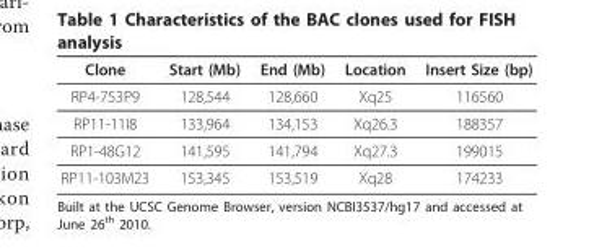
<table><thead><tr><td>Clone</td><td>Start (Mb)</td><td>End (Mb)</td><td>Location</td><td>Insert Size (bp)</td></tr></thead><tbody><tr><td>RP4-753P9</td><td>128,544</td><td>128,660</td><td>Xq25</td><td>116560</td></tr><tr><td>RP11-11I8</td><td>133,964</td><td>134,153</td><td>Xq26.3</td><td>188357</td></tr><tr><td>RP1-48G12</td><td>141,595</td><td>141,794</td><td>Xq27.3</td><td>199015</td></tr><tr><td>RP11-103M23</td><td>153,345</td><td>153,519</td><td>Xq28</td><td>174233</td></tr></tbody></table>